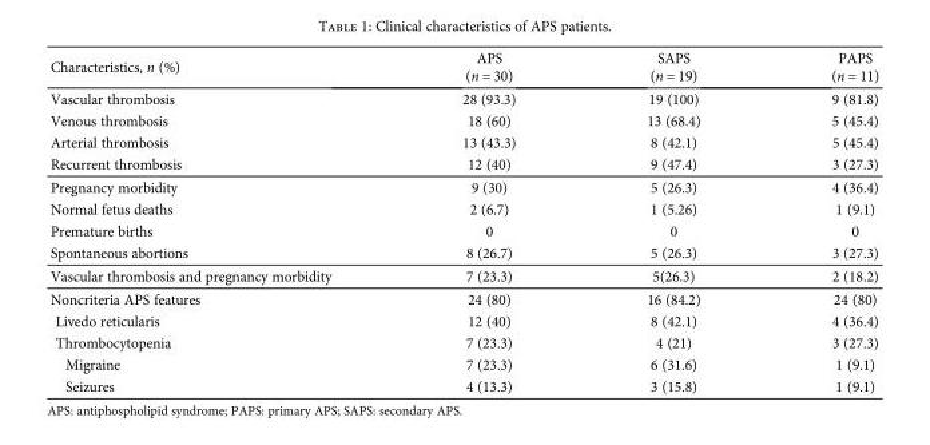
<table><thead><tr><td>Characteristics, n (%)</td><td>APS (n = 30)</td><td>SAPS (n = 19)</td><td>PAPS (n = 11)</td></tr></thead><tbody><tr><td>Vascular thrombosis</td><td>28 (93.3)</td><td>19 (100)</td><td>9 (81.8)</td></tr><tr><td>Venous thrombosis</td><td>18 (60)</td><td>13 (68.4)</td><td>5 (45.4)</td></tr><tr><td>Arterial thrombosis</td><td>13 (43.3)</td><td>8 (42.1)</td><td>5 (45.4)</td></tr><tr><td>Recurrent thrombosis</td><td>12 (40)</td><td>9 (47.4)</td><td>3 (27.3)</td></tr><tr><td>Pregnancy morbidity</td><td>9 (30)</td><td>5 (26.3)</td><td>4 (36.4)</td></tr><tr><td>Normal fetus deaths</td><td>2 (6.7)</td><td>1 (5.26)</td><td>1 (9.1)</td></tr><tr><td>Premature births</td><td>0</td><td>0</td><td>0</td></tr><tr><td>Spontaneous abortions</td><td>8 (26.7)</td><td>5 (26.3)</td><td>3 (27.3)</td></tr><tr><td>Vascular thrombosis and pregnancy morbidity</td><td>7 (23.3)</td><td>5(26.3)</td><td>2 (18.2)</td></tr><tr><td>Noncriteria APS features</td><td>24 (80)</td><td>16 (84.2)</td><td>24 (80)</td></tr><tr><td>Livedo reticularis</td><td>12 (40)</td><td>8 (42.1)</td><td>4 (36.4)</td></tr><tr><td>Thrombocytopenia</td><td>7 (23.3)</td><td>4 (21)</td><td>3 (27.3)</td></tr><tr><td>Migraine</td><td>7 (23.3)</td><td>6 (31.6)</td><td>1 (9.1)</td></tr><tr><td>Seizures</td><td>4 (13.3)</td><td>3 (15.8)</td><td>1 (9.1)</td></tr></tbody></table>